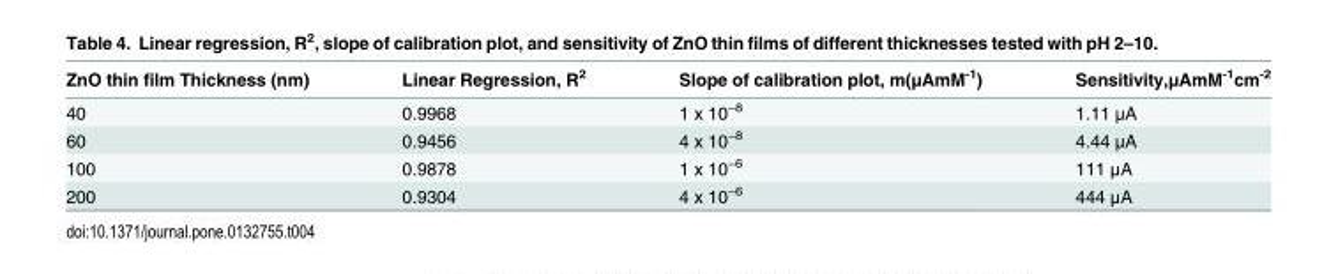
<table><thead><tr><td>ZnO thin film Thickness (nm)</td><td>Linear Regression, R<sup>2</sup></td><td>Slope of calibration plot, m(μAmM<sup>-1</sup>)</td><td>Sensitivity,μAmM<sup>-1</sup>cm<sup>-2</sup></td></tr></thead><tbody><tr><td>40</td><td>0.9968</td><td>1 x 10<sup>−8</sup></td><td>1.11 μA</td></tr><tr><td>60</td><td>0.9456</td><td>4 x 10<sup>−8</sup></td><td>4.44 μA</td></tr><tr><td>100</td><td>0.9878</td><td>1 x 10<sup>−6</sup></td><td>111 μA</td></tr><tr><td>200</td><td>0.9304</td><td>4 x 10<sup>−6</sup></td><td>444 μA</td></tr></tbody></table>